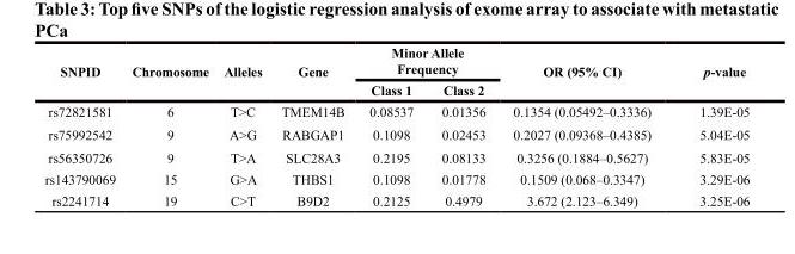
<table><thead><tr><td rowspan="2">SNPID</td><td rowspan="2">Chromosome</td><td rowspan="2">Alleles</td><td rowspan="2">Gene</td><td colspan="2">Minor Allele Frequency</td><td rowspan="2">OR (95% CI)</td><td rowspan="2">p-value</td></tr><tr><td>Class 1</td><td>Class 2</td></tr></thead><tbody><tr><td>rs72821581</td><td>6</td><td>T&gt;C</td><td>TMEM14B</td><td>0.08537</td><td>0.01356</td><td>0.1354 (0.05492–0.3336)</td><td>1.39E-05</td></tr><tr><td>rs75992542</td><td>9</td><td>A&gt;G</td><td>RABGAP1</td><td>0.1098</td><td>0.02453</td><td>0.2027 (0.09368–0.4385)</td><td>5.04E-05</td></tr><tr><td>rs56350726</td><td>9</td><td>T&gt;A</td><td>SLC28A3</td><td>0.2195</td><td>0.08133</td><td>0.3256 (0.1884–0.5627)</td><td>5.83E-05</td></tr><tr><td>rs143790069</td><td>15</td><td>G&gt;A</td><td>THBS1</td><td>0.1098</td><td>0.01778</td><td>0.1509 (0.068–0.3347)</td><td>3.29E-06</td></tr><tr><td>rs2241714</td><td>19</td><td>C&gt;T</td><td>B9D2</td><td>0.2125</td><td>0.4979</td><td>3.672 (2.123–6.349)</td><td>3.25E-06</td></tr></tbody></table>